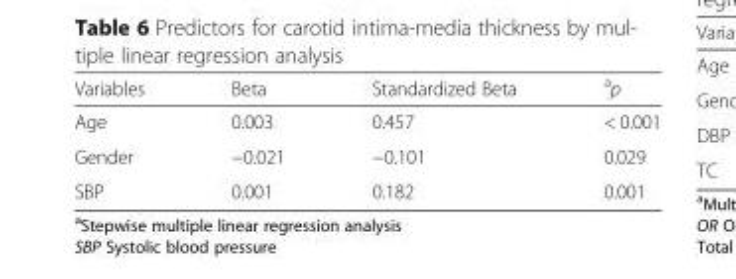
<table><thead><tr><td>Variables</td><td>Beta</td><td>Standardized Beta</td><td><sup>a</sup>p</td></tr></thead><tbody><tr><td>Age</td><td>0.003</td><td>0.457</td><td>&lt; 0.001</td></tr><tr><td>Gender</td><td>−0.021</td><td>−0.101</td><td>0.029</td></tr><tr><td>SBP</td><td>0.001</td><td>0.182</td><td>0.001</td></tr></tbody></table>